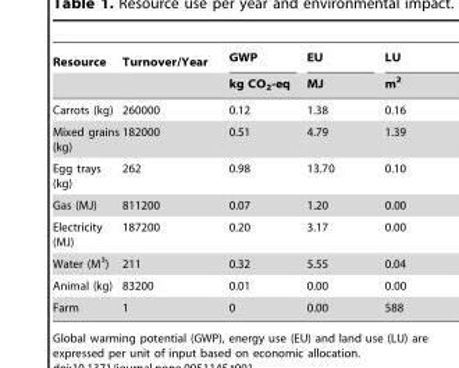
<table><thead><tr><td rowspan="2">Resource</td><td rowspan="2">Turnover/Year</td><td rowspan="2">GWP kg CO<sub>2</sub>-eq</td><td rowspan="2">EU MJ</td><td rowspan="2">LU m<sup>2</sup></td></tr><tr></tr></thead><tbody><tr><td>Carrots (kg)</td><td>260000</td><td>0.12</td><td>1.38</td><td>0.16</td></tr><tr><td>Mixed grains (kg)</td><td>182000</td><td>0.51</td><td>4.79</td><td>1.39</td></tr><tr><td>Egg trays (kg)</td><td>262</td><td>0.98</td><td>13.70</td><td>0.10</td></tr><tr><td>Gas (MJ)</td><td>811200</td><td>0.07</td><td>1.20</td><td>0.00</td></tr><tr><td>Electricity (MJ)</td><td>187200</td><td>0.20</td><td>3.17</td><td>0.00</td></tr><tr><td>Water (M<sup>3</sup>)</td><td>211</td><td>0.32</td><td>5.55</td><td>0.04</td></tr><tr><td>Animal (kg)</td><td>83200</td><td>0.01</td><td>0.00</td><td>0.00</td></tr><tr><td>Farm</td><td>1</td><td>0</td><td>0.00</td><td>588</td></tr></tbody></table>